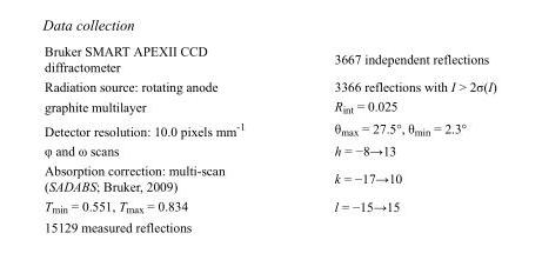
<table><tbody><tr><td>Bruker SMART APEXII CCD diffractometer</td><td>3667 independent reflections</td></tr><tr><td>Radiation source: rotating anode</td><td>3366 reflections with I &gt; 2σ(I)</td></tr><tr><td>graphite multilayer</td><td>R<sub>int</sub> = 0.025</td></tr><tr><td>Detector resolution: 10.0 pixels mm<sup>-1</sup></td><td>θ<sub>max</sub> = 27.5°, θ<sub>min</sub> = 2.3°</td></tr><tr><td>φ and ω scans</td><td>h = −8→13</td></tr><tr><td>Absorption correction: multi-scan (SADABS; Bruker, 2009)</td><td>k = −17→10</td></tr><tr><td>T<sub>min</sub> = 0.551, T<sub>max</sub> = 0.834</td><td>l = −15→15</td></tr><tr><td>15129 measured reflections</td><td></td></tr></tbody></table>